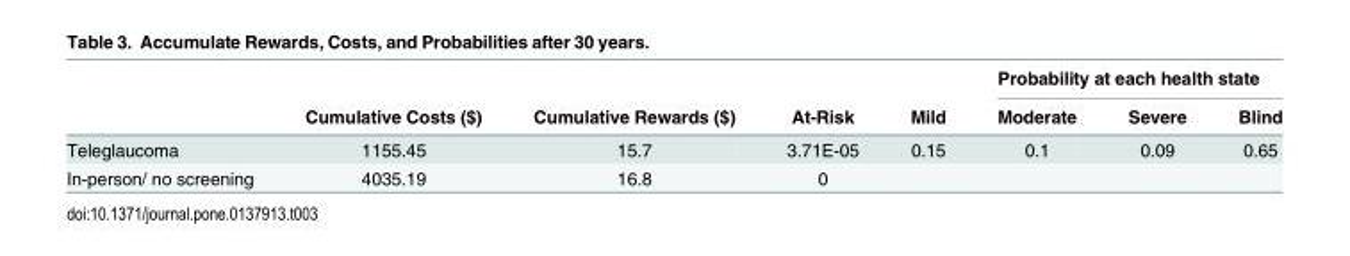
<table><thead><tr><td rowspan="2"></td><td rowspan="2">Cumulative Costs ($)</td><td rowspan="2">Cumulative Rewards ($)</td><td rowspan="2">At-Risk</td><td rowspan="2">Mild</td><td colspan="3">Probability at each health state</td></tr><tr><td>Moderate</td><td>Severe</td><td>Blind</td></tr></thead><tbody><tr><td>Teleglaucoma</td><td>1155.45</td><td>15.7</td><td>3.71E-05</td><td>0.15</td><td>0.1</td><td>0.09</td><td>0.65</td></tr><tr><td>In-person/ no screening</td><td>4035.19</td><td>16.8</td><td>0</td><td></td><td></td><td></td><td></td></tr></tbody></table>